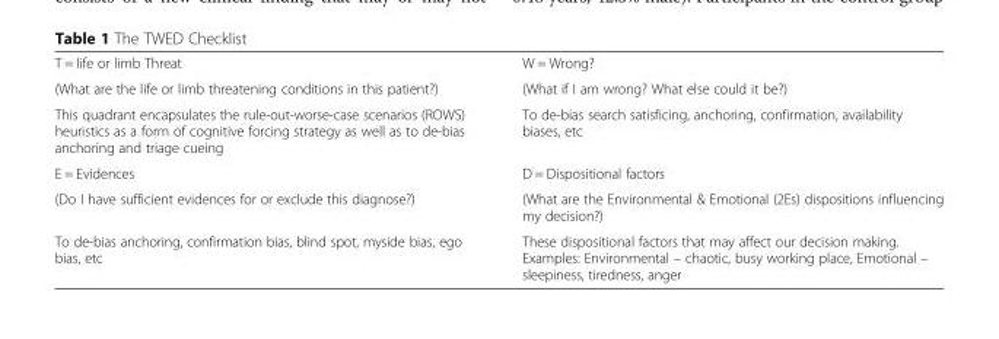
<table><tbody><tr><td>T = life or limb Threat</td><td>W = Wrong?</td></tr><tr><td>(What are the life or limb threatening conditions in this patient?)</td><td>(What if I am wrong? What else could it be?)</td></tr><tr><td>This quadrant encapsulates the rule-out-worse-case scenarios (ROWS) heuristics as a form of cognitive forcing strategy as well as to de-bias anchoring and triage cueing</td><td>To de-bias search satisficing, anchoring, confirmation, availability biases, etc</td></tr><tr><td>E = Evidences</td><td>D = Dispositional factors</td></tr><tr><td>(Do I have sufficient evidences for or exclude this diagnose?)</td><td>(What are the Environmental &amp; Emotional (2Es) dispositions influencing my decision?)</td></tr><tr><td>To de-bias anchoring, confirmation bias, blind spot, myside bias, ego bias, etc</td><td>These dispositional factors that may affect our decision making. Examples: Environmental – chaotic, busy working place, Emotional – sleepiness, tiredness, anger</td></tr></tbody></table>